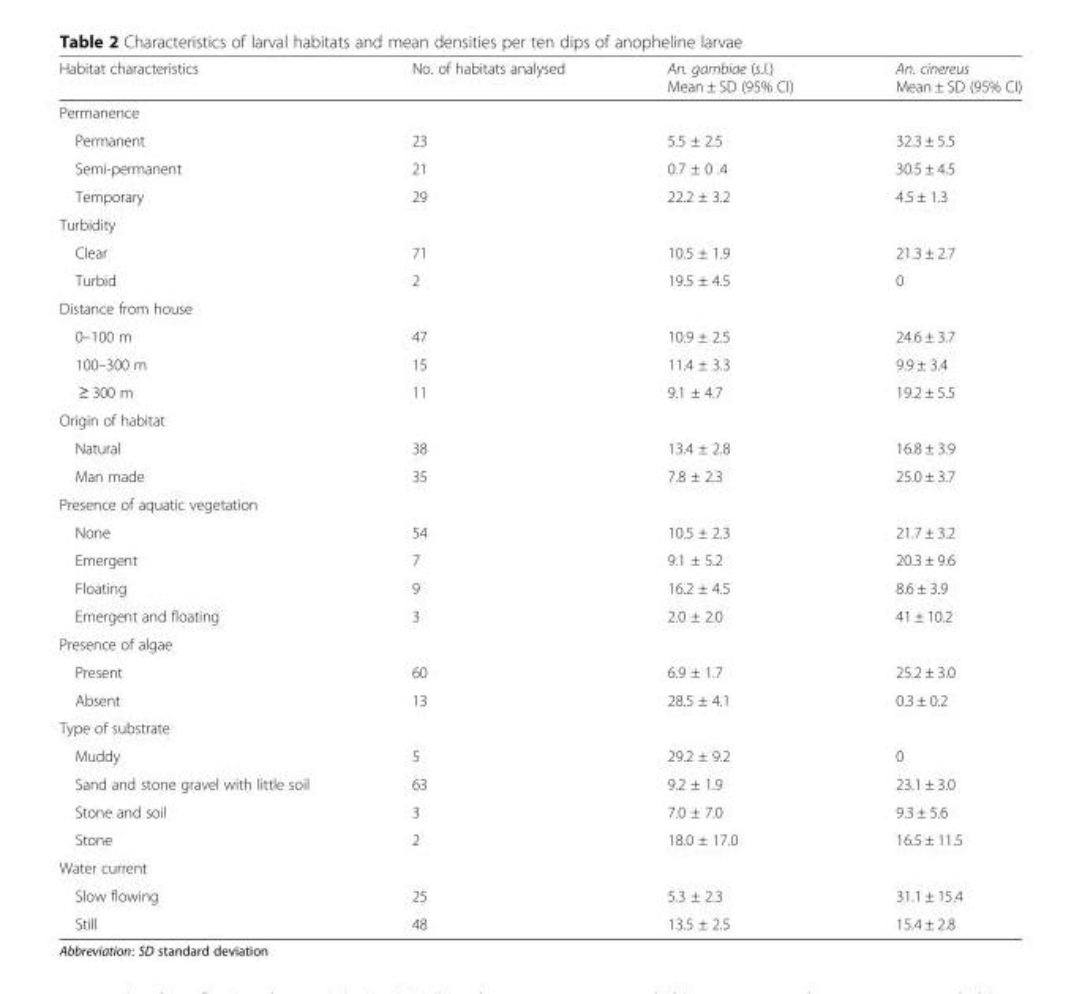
<table><thead><tr><td>Habitat characteristics</td><td>No. of habitats analysed</td><td>An. gambiae (s.l.) Mean ± SD (95% CI)</td><td>An. cinereus Mean ± SD (95% CI)</td></tr></thead><tbody><tr><td colspan="4">Permanence</td></tr><tr><td>Permanent</td><td>23</td><td>5.5 ± 2.5</td><td>32.3 ± 5.5</td></tr><tr><td>Semi-permanent</td><td>21</td><td>0.7 ± 0 .4</td><td>30.5 ± 4.5</td></tr><tr><td>Temporary</td><td>29</td><td>22.2 ± 3.2</td><td>4.5 ± 1.3</td></tr><tr><td colspan="4">Turbidity</td></tr><tr><td>Clear</td><td>71</td><td>10.5 ± 1.9</td><td>21.3 ± 2.7</td></tr><tr><td>Turbid</td><td>2</td><td>19.5 ± 4.5</td><td>0</td></tr><tr><td colspan="4">Distance from house</td></tr><tr><td>0–100 m</td><td>47</td><td>10.9 ± 2.5</td><td>24.6 ± 3.7</td></tr><tr><td>100–300 m</td><td>15</td><td>11.4 ± 3.3</td><td>9.9 ± 3.4</td></tr><tr><td>≥ 300 m</td><td>11</td><td>9.1 ± 4.7</td><td>19.2 ± 5.5</td></tr><tr><td colspan="4">Origin of habitat</td></tr><tr><td>Natural</td><td>38</td><td>13.4 ± 2.8</td><td>16.8 ± 3.9</td></tr><tr><td>Man made</td><td>35</td><td>7.8 ± 2.3</td><td>25.0 ± 3.7</td></tr><tr><td colspan="4">Presence of aquatic vegetation</td></tr><tr><td>None</td><td>54</td><td>10.5 ± 2.3</td><td>21.7 ± 3.2</td></tr><tr><td>Emergent</td><td>7</td><td>9.1 ± 5.2</td><td>20.3 ± 9.6</td></tr><tr><td>Floating</td><td>9</td><td>16.2 ± 4.5</td><td>8.6 ± 3.9</td></tr><tr><td>Emergent and floating</td><td>3</td><td>2.0 ± 2.0</td><td>41 ± 10.2</td></tr><tr><td colspan="4">Presence of algae</td></tr><tr><td>Present</td><td>60</td><td>6.9 ± 1.7</td><td>25.2 ± 3.0</td></tr><tr><td>Absent</td><td>13</td><td>28.5 ± 4.1</td><td>0.3 ± 0.2</td></tr><tr><td colspan="4">Type of substrate</td></tr><tr><td>Muddy</td><td>5</td><td>29.2 ± 9.2</td><td>0</td></tr><tr><td>Sand and stone gravel with little soil</td><td>63</td><td>9.2 ± 1.9</td><td>23.1 ± 3.0</td></tr><tr><td>Stone and soil</td><td>3</td><td>7.0 ± 7.0</td><td>9.3 ± 5.6</td></tr><tr><td>Stone</td><td>2</td><td>18.0 ± 17.0</td><td>16.5 ± 11.5</td></tr><tr><td colspan="4">Water current</td></tr><tr><td>Slow flowing</td><td>25</td><td>5.3 ± 2.3</td><td>31.1 ± 15.4</td></tr><tr><td>Still</td><td>48</td><td>13.5 ± 2.5</td><td>15.4 ± 2.8</td></tr></tbody></table>